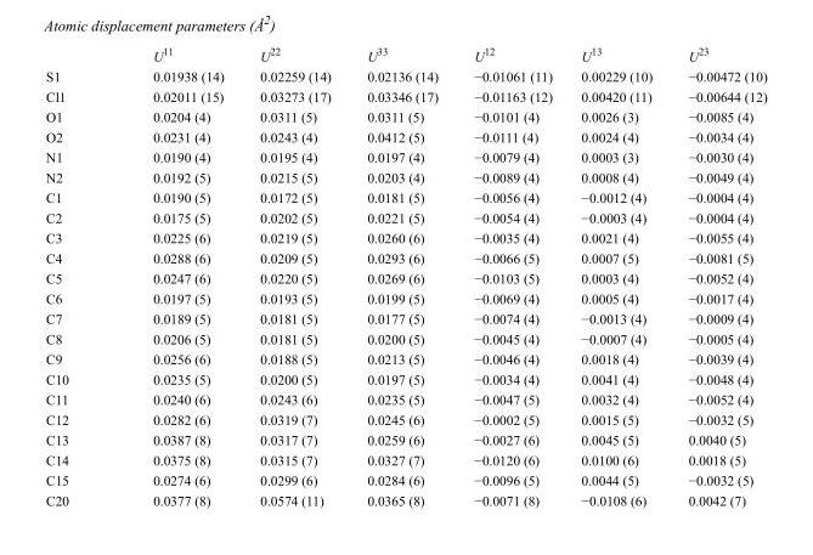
<table><thead><tr><td></td><td>U<sup>11</sup></td><td>U<sup>22</sup></td><td>U<sup>33</sup></td><td>U<sup>12</sup></td><td>U<sup>13</sup></td><td>U<sup>23</sup></td></tr></thead><tbody><tr><td>S1</td><td>0.01938 (14)</td><td>0.02259 (14)</td><td>0.02136 (14)</td><td>−0.01061 (11)</td><td>0.00229 (10)</td><td>−0.00472 (10)</td></tr><tr><td>Cl1</td><td>0.02011 (15)</td><td>0.03273 (17)</td><td>0.03346 (17)</td><td>−0.01163 (12)</td><td>0.00420 (11)</td><td>−0.00644 (12)</td></tr><tr><td>O1</td><td>0.0204 (4)</td><td>0.0311 (5)</td><td>0.0311 (5)</td><td>−0.0101 (4)</td><td>0.0026 (3)</td><td>−0.0085 (4)</td></tr><tr><td>O2</td><td>0.0231 (4)</td><td>0.0243 (4)</td><td>0.0412 (5)</td><td>−0.0111 (4)</td><td>0.0024 (4)</td><td>−0.0034 (4)</td></tr><tr><td>N1</td><td>0.0190 (4)</td><td>0.0195 (4)</td><td>0.0197 (4)</td><td>−0.0079 (4)</td><td>0.0003 (3)</td><td>−0.0030 (4)</td></tr><tr><td>N2</td><td>0.0192 (5)</td><td>0.0215 (5)</td><td>0.0203 (4)</td><td>−0.0089 (4)</td><td>0.0008 (4)</td><td>−0.0049 (4)</td></tr><tr><td>C1</td><td>0.0190 (5)</td><td>0.0172 (5)</td><td>0.0181 (5)</td><td>−0.0056 (4)</td><td>−0.0012 (4)</td><td>−0.0004 (4)</td></tr><tr><td>C2</td><td>0.0175 (5)</td><td>0.0202 (5)</td><td>0.0221 (5)</td><td>−0.0054 (4)</td><td>−0.0003 (4)</td><td>−0.0004 (4)</td></tr><tr><td>C3</td><td>0.0225 (6)</td><td>0.0219 (5)</td><td>0.0260 (6)</td><td>−0.0035 (4)</td><td>0.0021 (4)</td><td>−0.0055 (4)</td></tr><tr><td>C4</td><td>0.0288 (6)</td><td>0.0209 (5)</td><td>0.0293 (6)</td><td>−0.0066 (5)</td><td>0.0007 (5)</td><td>−0.0081 (5)</td></tr><tr><td>C5</td><td>0.0247 (6)</td><td>0.0220 (5)</td><td>0.0269 (6)</td><td>−0.0103 (5)</td><td>0.0003 (4)</td><td>−0.0052 (4)</td></tr><tr><td>C6</td><td>0.0197 (5)</td><td>0.0193 (5)</td><td>0.0199 (5)</td><td>−0.0069 (4)</td><td>0.0005 (4)</td><td>−0.0017 (4)</td></tr><tr><td>C7</td><td>0.0189 (5)</td><td>0.0181 (5)</td><td>0.0177 (5)</td><td>−0.0074 (4)</td><td>−0.0013 (4)</td><td>−0.0009 (4)</td></tr><tr><td>C8</td><td>0.0206 (5)</td><td>0.0181 (5)</td><td>0.0200 (5)</td><td>−0.0045 (4)</td><td>−0.0007 (4)</td><td>−0.0005 (4)</td></tr><tr><td>C9</td><td>0.0256 (6)</td><td>0.0188 (5)</td><td>0.0213 (5)</td><td>−0.0046 (4)</td><td>0.0018 (4)</td><td>−0.0039 (4)</td></tr><tr><td>C10</td><td>0.0235 (5)</td><td>0.0200 (5)</td><td>0.0197 (5)</td><td>−0.0034 (4)</td><td>0.0041 (4)</td><td>−0.0048 (4)</td></tr><tr><td>C11</td><td>0.0240 (6)</td><td>0.0243 (6)</td><td>0.0235 (5)</td><td>−0.0047 (5)</td><td>0.0032 (4)</td><td>−0.0052 (4)</td></tr><tr><td>C12</td><td>0.0282 (6)</td><td>0.0319 (7)</td><td>0.0245 (6)</td><td>−0.0002 (5)</td><td>0.0015 (5)</td><td>−0.0032 (5)</td></tr><tr><td>C13</td><td>0.0387 (8)</td><td>0.0317 (7)</td><td>0.0259 (6)</td><td>−0.0027 (6)</td><td>0.0045 (5)</td><td>0.0040 (5)</td></tr><tr><td>C14</td><td>0.0375 (8)</td><td>0.0315 (7)</td><td>0.0327 (7)</td><td>−0.0120 (6)</td><td>0.0100 (6)</td><td>0.0018 (5)</td></tr><tr><td>C15</td><td>0.0274 (6)</td><td>0.0299 (6)</td><td>0.0284 (6)</td><td>−0.0096 (5)</td><td>0.0044 (5)</td><td>−0.0032 (5)</td></tr><tr><td>C20</td><td>0.0377 (8)</td><td>0.0574 (11)</td><td>0.0365 (8)</td><td>−0.0071 (8)</td><td>−0.0108 (6)</td><td>0.0042 (7)</td></tr></tbody></table>